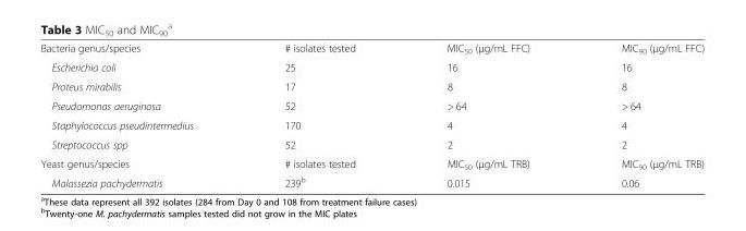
<table><tbody><tr><td>Bacteria genus/species</td><td># isolates tested</td><td>MIC<sub>50</sub> (μg/mL FFC)</td><td>MIC<sub>90</sub> (μg/mL FFC)</td></tr><tr><td>Escherichia coli</td><td>25</td><td>16</td><td>16</td></tr><tr><td>Proteus mirabilis</td><td>17</td><td>8</td><td>8</td></tr><tr><td>Pseudomonas aeruginosa</td><td>52</td><td>&gt; 64</td><td>&gt; 64</td></tr><tr><td>Staphylococcus pseudintermedius</td><td>170</td><td>4</td><td>4</td></tr><tr><td>Streptococcus spp</td><td>52</td><td>2</td><td>2</td></tr><tr><td>Yeast genus/species</td><td># isolates tested</td><td>MIC<sub>50</sub> (μg/mL TRB)</td><td>MIC<sub>90</sub> (μg/mL TRB)</td></tr><tr><td>Malassezia pachydermatis</td><td>239<sup>b</sup></td><td>0.015</td><td>0.06</td></tr></tbody></table>